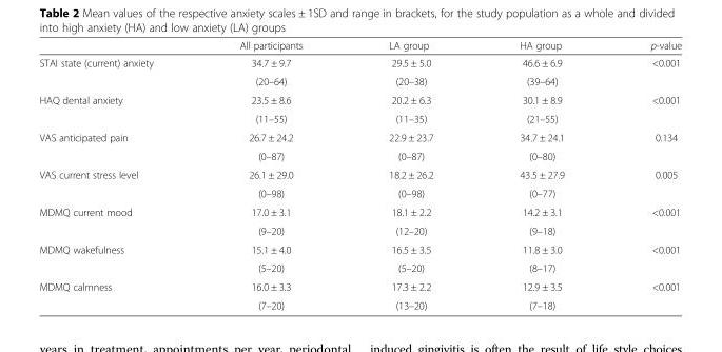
<table><thead><tr><td></td><td>All participants</td><td>LA group</td><td>HA group</td><td>p-value</td></tr></thead><tbody><tr><td rowspan="2">STAI state (current) anxiety</td><td>34.7 ± 9.7</td><td>29.5 ± 5.0</td><td>46.6 ± 6.9</td><td rowspan="2">&lt;0.001</td></tr><tr><td>(20–64)</td><td>(20–38)</td><td>(39–64)</td></tr><tr><td rowspan="2">HAQ dental anxiety</td><td>23.5 ± 8.6</td><td>20.2 ± 6.3</td><td>30.1 ± 8.9</td><td rowspan="2">&lt;0.001</td></tr><tr><td>(11–55)</td><td>(11–35)</td><td>(21–55)</td></tr><tr><td rowspan="2">VAS anticipated pain</td><td>26.7 ± 24.2</td><td>22.9 ± 23.7</td><td>34.7 ± 24.1</td><td rowspan="2">0.134</td></tr><tr><td>(0–87)</td><td>(0–87)</td><td>(0–80)</td></tr><tr><td rowspan="2">VAS current stress level</td><td>26.1 ± 29.0</td><td>18.2 ± 26.2</td><td>43.5 ± 27.9</td><td rowspan="2">0.005</td></tr><tr><td>(0–98)</td><td>(0–98)</td><td>(0–77)</td></tr><tr><td rowspan="2">MDMQ current mood</td><td>17.0 ± 3.1</td><td>18.1 ± 2.2</td><td>14.2 ± 3.1</td><td rowspan="2">&lt;0.001</td></tr><tr><td>(9–20)</td><td>(12–20)</td><td>(9–18)</td></tr><tr><td rowspan="2">MDMQ wakefulness</td><td>15.1 ± 4.0</td><td>16.5 ± 3.5</td><td>11.8 ± 3.0</td><td rowspan="2">&lt;0.001</td></tr><tr><td>(5–20)</td><td>(5–20)</td><td>(8–17)</td></tr><tr><td rowspan="2">MDMQ calmness</td><td>16.0 ± 3.3</td><td>17.3 ± 2.2</td><td>12.9 ± 3.5</td><td rowspan="2">&lt;0.001</td></tr><tr><td>(7–20)</td><td>(13–20)</td><td>(7–18)</td></tr></tbody></table>